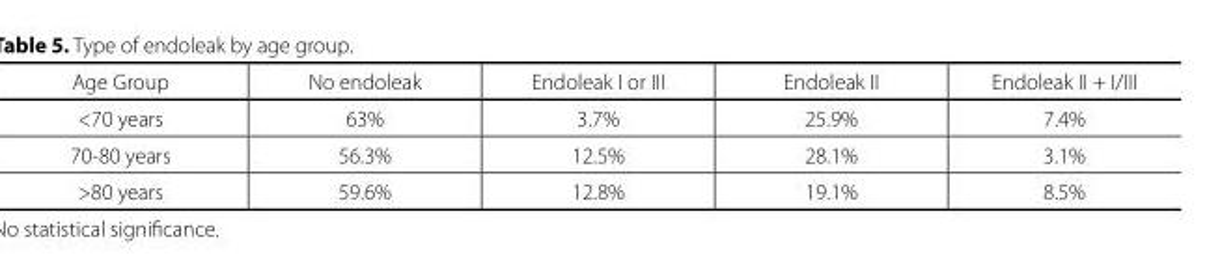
<table><thead><tr><td>Age Group</td><td>No endoleak</td><td>Endoleak I or III</td><td>Endoleak II</td><td>Endoleak II + I/III</td></tr></thead><tbody><tr><td>&lt;70 years</td><td>63%</td><td>3.7%</td><td>25.9%</td><td>7.4%</td></tr><tr><td>70-80 years</td><td>56.3%</td><td>12.5%</td><td>28.1%</td><td>3.1%</td></tr><tr><td>&gt;80 years</td><td>59.6%</td><td>12.8%</td><td>19.1%</td><td>8.5%</td></tr></tbody></table>